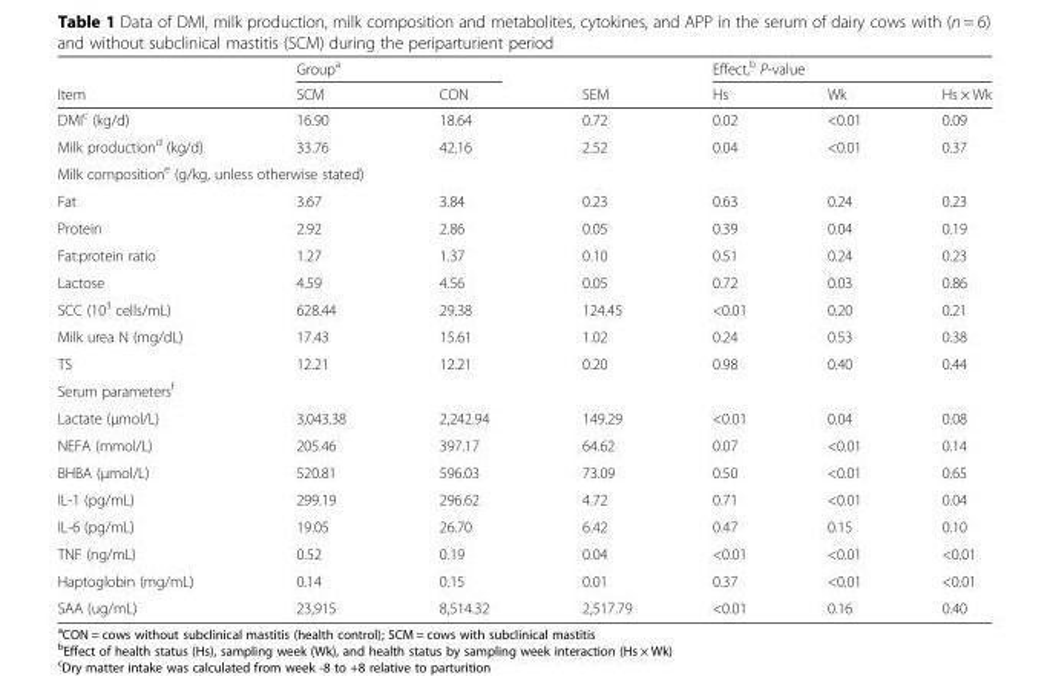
<table><thead><tr><td rowspan="2">Item</td><td colspan="2">Group<sup>a</sup></td><td rowspan="2">SEM</td><td colspan="3">Effect,<sup>b</sup> P-value</td></tr><tr><td>SCM</td><td>CON</td><td>Hs</td><td>Wk</td><td>Hs × Wk</td></tr></thead><tbody><tr><td>DMI<sup>c</sup> (kg/d)</td><td>16.90</td><td>18.64</td><td>0.72</td><td>0.02</td><td>&lt;0.01</td><td>0.09</td></tr><tr><td>Milk production<sup>d</sup> (kg/d)</td><td>33.76</td><td>42.16</td><td>2.52</td><td>0.04</td><td>&lt;0.01</td><td>0.37</td></tr><tr><td colspan="7">Milk composition<sup>e</sup> (g/kg, unless otherwise stated)</td></tr><tr><td>Fat</td><td>3.67</td><td>3.84</td><td>0.23</td><td>0.63</td><td>0.24</td><td>0.23</td></tr><tr><td>Protein</td><td>2.92</td><td>2.86</td><td>0.05</td><td>0.39</td><td>0.04</td><td>0.19</td></tr><tr><td>Fat:protein ratio</td><td>1.27</td><td>1.37</td><td>0.10</td><td>0.51</td><td>0.24</td><td>0.23</td></tr><tr><td>Lactose</td><td>4.59</td><td>4.56</td><td>0.05</td><td>0.72</td><td>0.03</td><td>0.86</td></tr><tr><td>SCC (10<sup>3</sup> cells/mL)</td><td>628.44</td><td>29.38</td><td>124.45</td><td>&lt;0.01</td><td>0.20</td><td>0.21</td></tr><tr><td>Milk urea N (mg/dL)</td><td>17.43</td><td>15.61</td><td>1.02</td><td>0.24</td><td>0.53</td><td>0.38</td></tr><tr><td>TS</td><td>12.21</td><td>12.21</td><td>0.20</td><td>0.98</td><td>0.40</td><td>0.44</td></tr><tr><td colspan="7">Serum parameters<sup>f</sup></td></tr><tr><td>Lactate (μmol/L)</td><td>3,043.38</td><td>2,242.94</td><td>149.29</td><td>&lt;0.01</td><td>0.04</td><td>0.08</td></tr><tr><td>NEFA (mmol/L)</td><td>205.46</td><td>397.17</td><td>64.62</td><td>0.07</td><td>&lt;0.01</td><td>0.14</td></tr><tr><td>BHBA (μmol/L)</td><td>520.81</td><td>596.03</td><td>73.09</td><td>0.50</td><td>&lt;0.01</td><td>0.65</td></tr><tr><td>IL-1 (pg/mL)</td><td>299.19</td><td>296.62</td><td>4.72</td><td>0.71</td><td>&lt;0.01</td><td>0.04</td></tr><tr><td>IL-6 (pg/mL)</td><td>19.05</td><td>26.70</td><td>6.42</td><td>0.47</td><td>0.15</td><td>0.10</td></tr><tr><td>TNF (ng/mL)</td><td>0.52</td><td>0.19</td><td>0.04</td><td>&lt;0.01</td><td>&lt;0.01</td><td>&lt;0.01</td></tr><tr><td>Haptoglobin (mg/mL)</td><td>0.14</td><td>0.15</td><td>0.01</td><td>0.37</td><td>&lt;0.01</td><td>&lt;0.01</td></tr><tr><td>SAA (ug/mL)</td><td>23,915</td><td>8,514.32</td><td>2,517.79</td><td>&lt;0.01</td><td>0.16</td><td>0.40</td></tr></tbody></table>